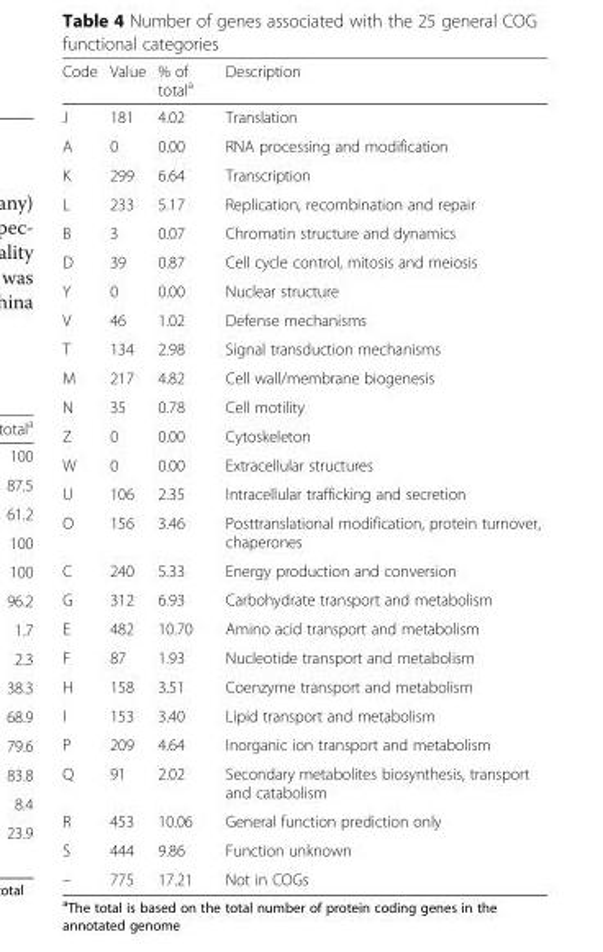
<table><thead><tr><td>Code</td><td>Value</td><td>% of total<sup>a</sup></td><td>Description</td></tr></thead><tbody><tr><td>J</td><td>181</td><td>4.02</td><td>Translation</td></tr><tr><td>A</td><td>0</td><td>0.00</td><td>RNA processing and modification</td></tr><tr><td>K</td><td>299</td><td>6.64</td><td>Transcription</td></tr><tr><td>L</td><td>233</td><td>5.17</td><td>Replication, recombination and repair</td></tr><tr><td>B</td><td>3</td><td>0.07</td><td>Chromatin structure and dynamics</td></tr><tr><td>D</td><td>39</td><td>0.87</td><td>Cell cycle control, mitosis and meiosis</td></tr><tr><td>Y</td><td>0</td><td>0.00</td><td>Nuclear structure</td></tr><tr><td>V</td><td>46</td><td>1.02</td><td>Defense mechanisms</td></tr><tr><td>T</td><td>134</td><td>2.98</td><td>Signal transduction mechanisms</td></tr><tr><td>M</td><td>217</td><td>4.82</td><td>Cell wall/membrane biogenesis</td></tr><tr><td>N</td><td>35</td><td>0.78</td><td>Cell motility</td></tr><tr><td>Z</td><td>0</td><td>0.00</td><td>Cytoskeleton</td></tr><tr><td>W</td><td>0</td><td>0.00</td><td>Extracellular structures</td></tr><tr><td>U</td><td>106</td><td>2.35</td><td>Intracellular trafficking and secretion</td></tr><tr><td>O</td><td>156</td><td>3.46</td><td>Posttranslational modification, protein turnover, chaperones</td></tr><tr><td>C</td><td>240</td><td>5.33</td><td>Energy production and conversion</td></tr><tr><td>G</td><td>312</td><td>6.93</td><td>Carbohydrate transport and metabolism</td></tr><tr><td>E</td><td>482</td><td>10.70</td><td>Amino acid transport and metabolism</td></tr><tr><td>F</td><td>87</td><td>1.93</td><td>Nucleotide transport and metabolism</td></tr><tr><td>H</td><td>158</td><td>3.51</td><td>Coenzyme transport and metabolism</td></tr><tr><td>I</td><td>153</td><td>3.40</td><td>Lipid transport and metabolism</td></tr><tr><td>P</td><td>209</td><td>4.64</td><td>Inorganic ion transport and metabolism</td></tr><tr><td>Q</td><td>91</td><td>2.02</td><td>Secondary metabolites biosynthesis, transport and catabolism</td></tr><tr><td>R</td><td>453</td><td>10.06</td><td>General function prediction only</td></tr><tr><td>S</td><td>444</td><td>9.86</td><td>Function unknown</td></tr><tr><td>–</td><td>775</td><td>17.21</td><td>Not in COGs</td></tr></tbody></table>